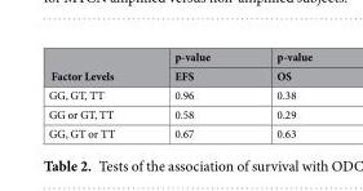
<table><thead><tr><td rowspan="2">Factor Levels</td><td rowspan="2">p-value EFS</td><td rowspan="2">p-value OS</td></tr><tr></tr></thead><tbody><tr><td>GG, GT, TT</td><td>0.96</td><td>0.38</td></tr><tr><td>GG or GT, TT</td><td>0.58</td><td>0.29</td></tr><tr><td>GG, GT or TT</td><td>0.67</td><td>0.63</td></tr></tbody></table>